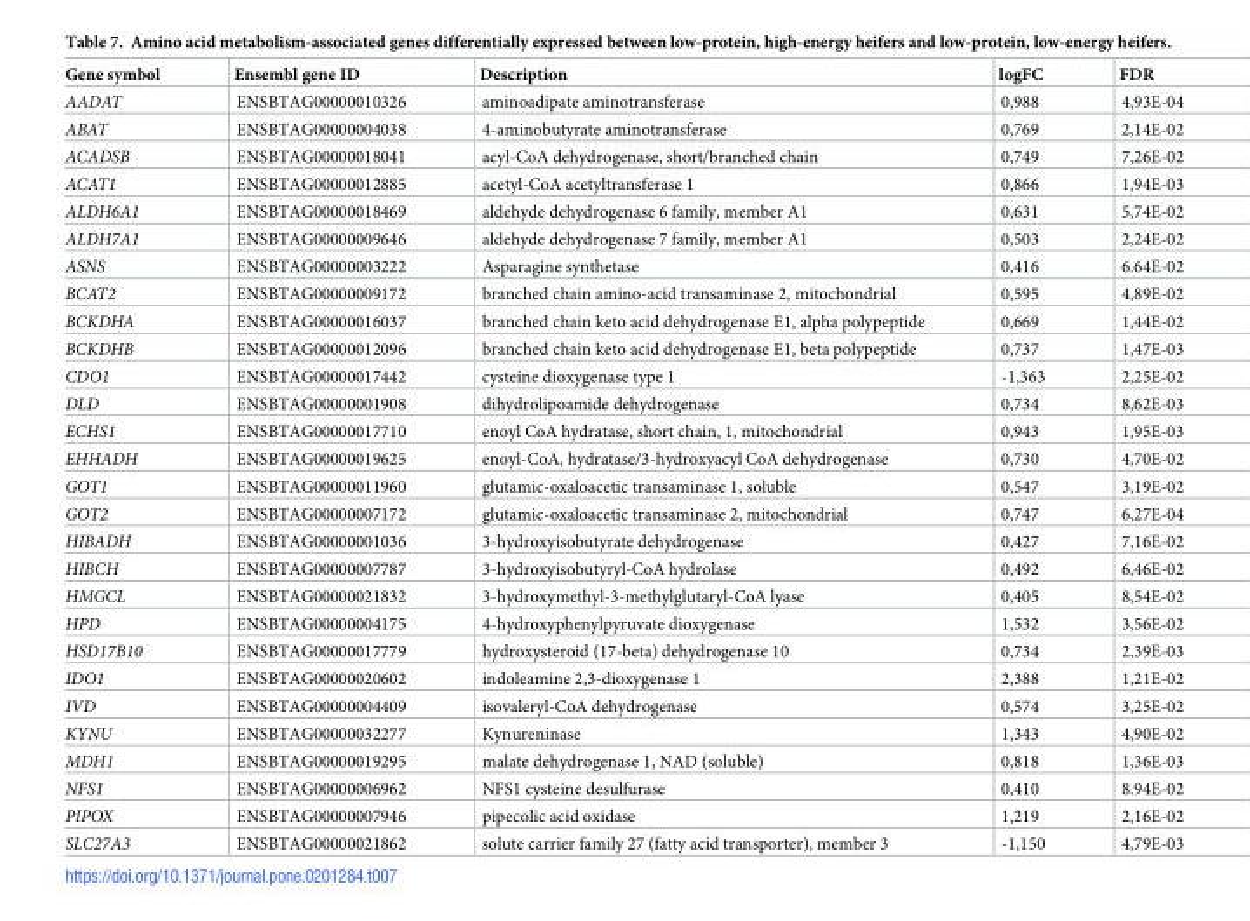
<table><thead><tr><td>Gene symbol</td><td>Ensembl gene ID</td><td>Description</td><td>logFC</td><td>FDR</td></tr></thead><tbody><tr><td>AADAT</td><td>ENSBTAG00000010326</td><td>aminoadipate aminotransferase</td><td>0,988</td><td>4,93E-04</td></tr><tr><td>ABAT</td><td>ENSBTAG00000004038</td><td>4-aminobutyrate aminotransferase</td><td>0,769</td><td>2,14E-02</td></tr><tr><td>ACADSB</td><td>ENSBTAG00000018041</td><td>acyl-CoA dehydrogenase, short/branched chain</td><td>0,749</td><td>7,26E-02</td></tr><tr><td>ACAT1</td><td>ENSBTAG00000012885</td><td>acetyl-CoA acetyltransferase 1</td><td>0,866</td><td>1,94E-03</td></tr><tr><td>ALDH6A1</td><td>ENSBTAG00000018469</td><td>aldehyde dehydrogenase 6 family, member A1</td><td>0,631</td><td>5,74E-02</td></tr><tr><td>ALDH7A1</td><td>ENSBTAG00000009646</td><td>aldehyde dehydrogenase 7 family, member A1</td><td>0,503</td><td>2,24E-02</td></tr><tr><td>ASNS</td><td>ENSBTAG00000003222</td><td>Asparagine synthetase</td><td>0,416</td><td>6.64E-02</td></tr><tr><td>BCAT2</td><td>ENSBTAG00000009172</td><td>branched chain amino-acid transaminase 2, mitochondrial</td><td>0,595</td><td>4,89E-02</td></tr><tr><td>BCKDHA</td><td>ENSBTAG00000016037</td><td>branched chain keto acid dehydrogenase E1, alpha polypeptide</td><td>0,669</td><td>1,44E-02</td></tr><tr><td>BCKDHB</td><td>ENSBTAG00000012096</td><td>branched chain keto acid dehydrogenase E1, beta polypeptide</td><td>0,737</td><td>1,47E-03</td></tr><tr><td>CDO1</td><td>ENSBTAG00000017442</td><td>cysteine dioxygenase type 1</td><td>-1,363</td><td>2,25E-02</td></tr><tr><td>DLD</td><td>ENSBTAG00000001908</td><td>dihydrolipoamide dehydrogenase</td><td>0,734</td><td>8,62E-03</td></tr><tr><td>ECHS1</td><td>ENSBTAG00000017710</td><td>enoyl CoA hydratase, short chain, 1, mitochondrial</td><td>0,943</td><td>1,95E-03</td></tr><tr><td>EHHADH</td><td>ENSBTAG00000019625</td><td>enoyl-CoA, hydratase/3-hydroxyacyl CoA dehydrogenase</td><td>0,730</td><td>4,70E-02</td></tr><tr><td>GOT1</td><td>ENSBTAG00000011960</td><td>glutamic-oxaloacetic transaminase 1, soluble</td><td>0,547</td><td>3,19E-02</td></tr><tr><td>GOT2</td><td>ENSBTAG00000007172</td><td>glutamic-oxaloacetic transaminase 2, mitochondrial</td><td>0,747</td><td>6,27E-04</td></tr><tr><td>HIBADH</td><td>ENSBTAG00000001036</td><td>3-hydroxyisobutyrate dehydrogenase</td><td>0,427</td><td>7,16E-02</td></tr><tr><td>HIBCH</td><td>ENSBTAG00000007787</td><td>3-hydroxyisobutyryl-CoA hydrolase</td><td>0,492</td><td>6,46E-02</td></tr><tr><td>HMGCL</td><td>ENSBTAG00000021832</td><td>3-hydroxymethyl-3-methylglutaryl-CoA lyase</td><td>0,405</td><td>8,54E-02</td></tr><tr><td>HPD</td><td>ENSBTAG00000004175</td><td>4-hydroxyphenylpyruvate dioxygenase</td><td>1,532</td><td>3,56E-02</td></tr><tr><td>HSD17B10</td><td>ENSBTAG00000017779</td><td>hydroxysteroid (17-beta) dehydrogenase 10</td><td>0,734</td><td>2,39E-03</td></tr><tr><td>IDO1</td><td>ENSBTAG00000020602</td><td>indoleamine 2,3-dioxygenase 1</td><td>2,388</td><td>1,21E-02</td></tr><tr><td>IVD</td><td>ENSBTAG00000004409</td><td>isovaleryl-CoA dehydrogenase</td><td>0,574</td><td>3,25E-02</td></tr><tr><td>KYNU</td><td>ENSBTAG00000032277</td><td>Kynureninase</td><td>1,343</td><td>4,90E-02</td></tr><tr><td>MDH1</td><td>ENSBTAG00000019295</td><td>malate dehydrogenase 1, NAD (soluble)</td><td>0,818</td><td>1,36E-03</td></tr><tr><td>NFS1</td><td>ENSBTAG00000006962</td><td>NFS1 cysteine desulfurase</td><td>0,410</td><td>8.94E-02</td></tr><tr><td>PIPOX</td><td>ENSBTAG00000007946</td><td>pipecolic acid oxidase</td><td>1,219</td><td>2,16E-02</td></tr><tr><td>SLC27A3</td><td>ENSBTAG00000021862</td><td>solute carrier family 27 (fatty acid transporter), member 3</td><td>-1,150</td><td>4,79E-03</td></tr></tbody></table>